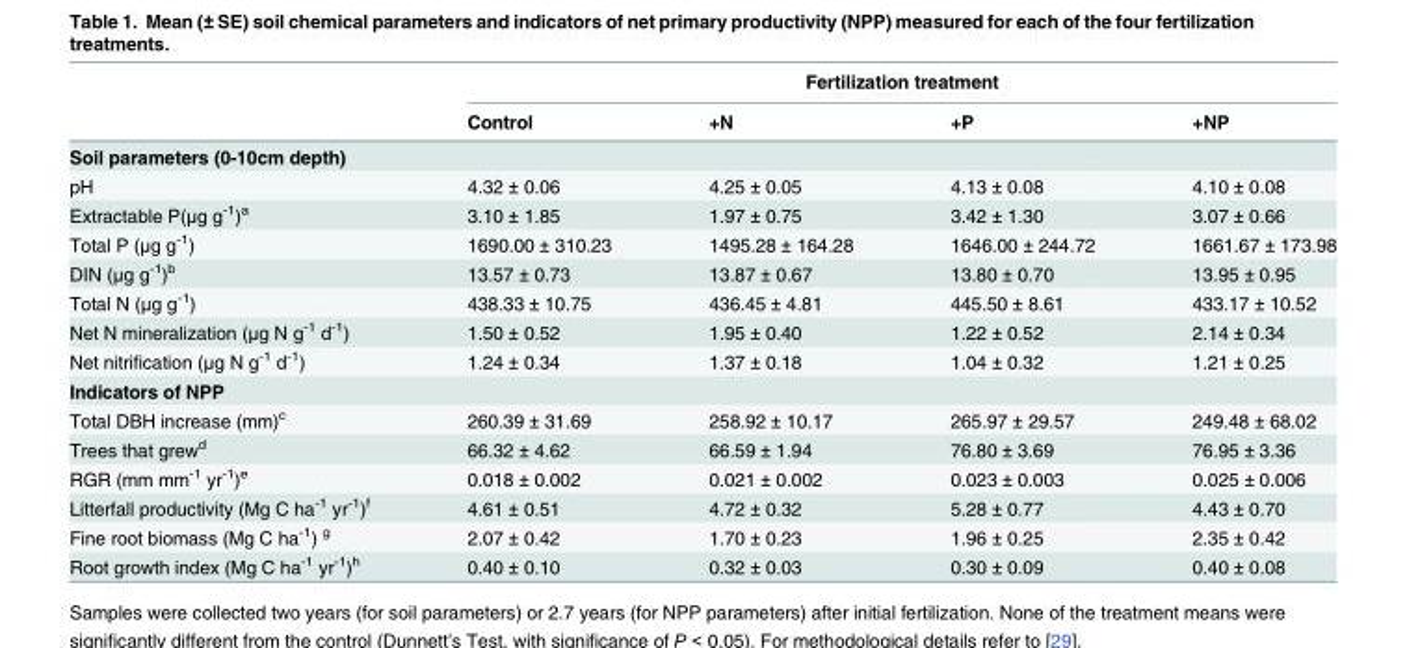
<table><thead><tr><td rowspan="2"></td><td colspan="4">Fertilization treatment</td></tr><tr><td>Control</td><td>+N</td><td>+P</td><td>+NP</td></tr></thead><tbody><tr><td colspan="5">Soil parameters (0-10cm depth)</td></tr><tr><td>pH</td><td>4.32 ± 0.06</td><td>4.25 ± 0.05</td><td>4.13 ± 0.08</td><td>4.10 ± 0.08</td></tr><tr><td>Extractable P(μg g<sup>-1</sup>)<sup>a</sup></td><td>3.10 ± 1.85</td><td>1.97 ± 0.75</td><td>3.42 ± 1.30</td><td>3.07 ± 0.66</td></tr><tr><td>Total P (μg g<sup>-1</sup>)</td><td>1690.00 ± 310.23</td><td>1495.28 ± 164.28</td><td>1646.00 ± 244.72</td><td>1661.67 ± 173.98</td></tr><tr><td>DIN (μg g<sup>-1</sup>)<sup>b</sup></td><td>13.57 ± 0.73</td><td>13.87 ± 0.67</td><td>13.80 ± 0.70</td><td>13.95 ± 0.95</td></tr><tr><td>Total N (μg g<sup>-1</sup>)</td><td>438.33 ± 10.75</td><td>436.45 ± 4.81</td><td>445.50 ± 8.61</td><td>433.17 ± 10.52</td></tr><tr><td>Net N mineralization (μg N g<sup>-1</sup> d<sup>-1</sup>)</td><td>1.50 ± 0.52</td><td>1.95 ± 0.40</td><td>1.22 ± 0.52</td><td>2.14 ± 0.34</td></tr><tr><td>Net nitrification (μg N g<sup>-1</sup> d<sup>-1</sup>)</td><td>1.24 ± 0.34</td><td>1.37 ± 0.18</td><td>1.04 ± 0.32</td><td>1.21 ± 0.25</td></tr><tr><td colspan="5">Indicators of NPP</td></tr><tr><td>Total DBH increase (mm)<sup>c</sup></td><td>260.39 ± 31.69</td><td>258.92 ± 10.17</td><td>265.97 ± 29.57</td><td>249.48 ± 68.02</td></tr><tr><td>Trees that grew<sup>d</sup></td><td>66.32 ± 4.62</td><td>66.59 ± 1.94</td><td>76.80 ± 3.69</td><td>76.95 ± 3.36</td></tr><tr><td>RGR (mm mm<sup>-1</sup> yr<sup>-1</sup>)<sup>e</sup></td><td>0.018 ± 0.002</td><td>0.021 ± 0.002</td><td>0.023 ± 0.003</td><td>0.025 ± 0.006</td></tr><tr><td>Litterfall productivity (Mg C ha<sup>-1</sup> yr<sup>-1</sup>)<sup>f</sup></td><td>4.61 ± 0.51</td><td>4.72 ± 0.32</td><td>5.28 ± 0.77</td><td>4.43 ± 0.70</td></tr><tr><td>Fine root biomass (Mg C ha<sup>-1</sup>) <sup>g</sup></td><td>2.07 ± 0.42</td><td>1.70 ± 0.23</td><td>1.96 ± 0.25</td><td>2.35 ± 0.42</td></tr><tr><td>Root growth index (Mg C ha<sup>-1</sup> yr<sup>-1</sup>)<sup>h</sup></td><td>0.40 ± 0.10</td><td>0.32 ± 0.03</td><td>0.30 ± 0.09</td><td>0.40 ± 0.08</td></tr></tbody></table>